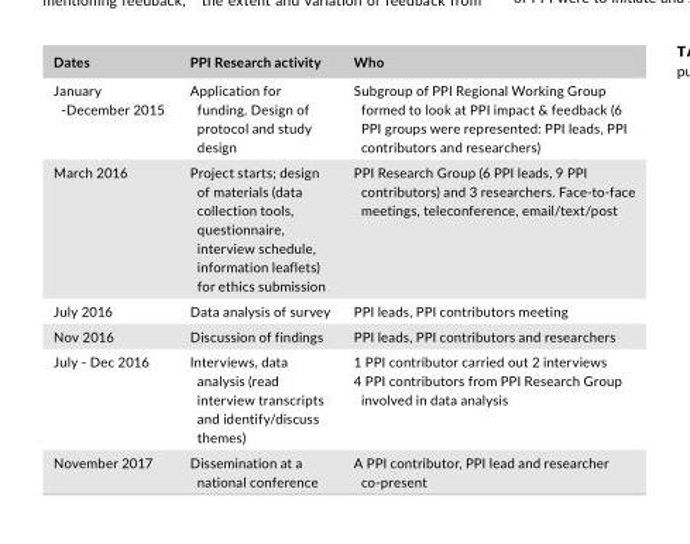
<table><thead><tr><td>Dates</td><td>PPI Research activity</td><td>Who</td></tr></thead><tbody><tr><td>January - December 2015</td><td>Application for funding. Design of protocol and study design</td><td>Subgroup of PPI Regional Working Group formed to look at PPI impact &amp; feedback (6 PPI groups were represented: PPI leads, PPI contributors and researchers)</td></tr><tr><td>March 2016</td><td>Project starts; design of materials (data collection tools, questionnaire, interview schedule, information leaflets) for ethics submission</td><td>PPI Research Group (6 PPI leads, 9 PPI contributors) and 3 researchers. Face- to- face meetings, teleconference, email/text/post</td></tr><tr><td>July 2016</td><td>Data analysis of survey</td><td>PPI leads, PPI contributors meeting</td></tr><tr><td>Nov 2016</td><td>Discussion of findings</td><td>PPI leads, PPI contributors and researchers</td></tr><tr><td>July - Dec 2016</td><td>Interviews, data analysis (read interview transcripts and identify/discuss themes)</td><td>1 PPI contributor carried out 2 interviews 4 PPI contributors from PPI Research Group involved in data analysis</td></tr><tr><td>November 2017</td><td>Dissemination at a national conference</td><td>A PPI contributor, PPI lead and researcher co- present</td></tr></tbody></table>